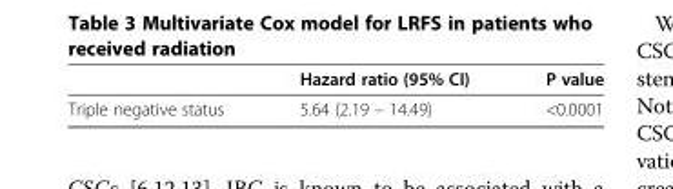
<table><thead><tr><td></td><td>Hazard ratio (95% CI)</td><td>P value</td></tr></thead><tbody><tr><td>Triple negative status</td><td>5.64 (2.19 – 14.49)</td><td>&lt;0.0001</td></tr></tbody></table>